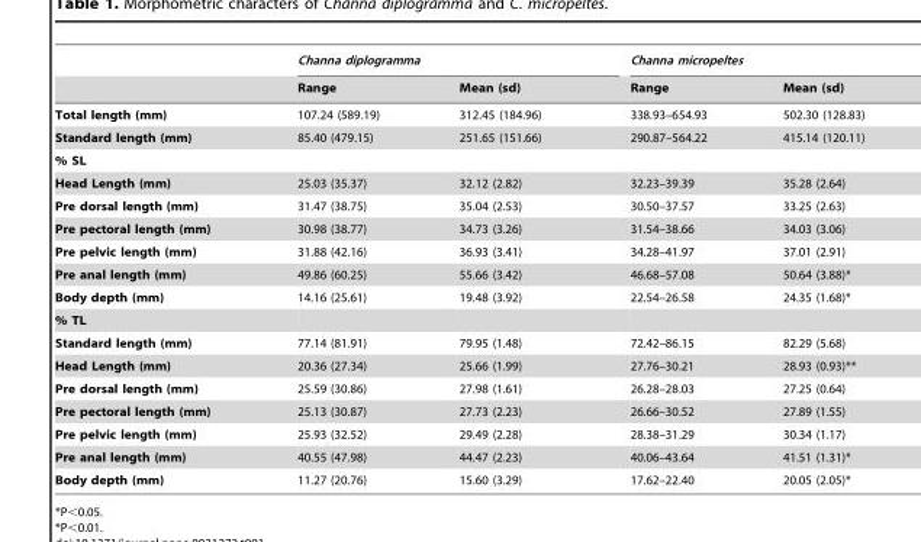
<table><thead><tr><td rowspan="2"></td><td colspan="2">Channa diplogramma</td><td colspan="2">Channa micropeltes</td></tr><tr><td>Range</td><td>Mean (sd)</td><td>Range</td><td>Mean (sd)</td></tr></thead><tbody><tr><td>Total length (mm)</td><td>107.24 (589.19)</td><td>312.45 (184.96)</td><td>338.93–654.93</td><td>502.30 (128.83)</td></tr><tr><td>Standard length (mm)</td><td>85.40 (479.15)</td><td>251.65 (151.66)</td><td>290.87–564.22</td><td>415.14 (120.11)</td></tr><tr><td colspan="5">% SL</td></tr><tr><td>Head Length (mm)</td><td>25.03 (35.37)</td><td>32.12 (2.82)</td><td>32.23–39.39</td><td>35.28 (2.64)</td></tr><tr><td>Pre dorsal length (mm)</td><td>31.47 (38.75)</td><td>35.04 (2.53)</td><td>30.50–37.57</td><td>33.25 (2.63)</td></tr><tr><td>Pre pectoral length (mm)</td><td>30.98 (38.77)</td><td>34.73 (3.26)</td><td>31.54–38.66</td><td>34.03 (3.06)</td></tr><tr><td>Pre pelvic length (mm)</td><td>31.88 (42.16)</td><td>36.93 (3.41)</td><td>34.28–41.97</td><td>37.01 (2.91)</td></tr><tr><td>Pre anal length (mm)</td><td>49.86 (60.25)</td><td>55.66 (3.42)</td><td>46.68–57.08</td><td>50.64 (3.88)*</td></tr><tr><td>Body depth (mm)</td><td>14.16 (25.61)</td><td>19.48 (3.92)</td><td>22.54–26.58</td><td>24.35 (1.68)*</td></tr><tr><td colspan="5">% TL</td></tr><tr><td>Standard length (mm)</td><td>77.14 (81.91)</td><td>79.95 (1.48)</td><td>72.42–86.15</td><td>82.29 (5.68)</td></tr><tr><td>Head Length (mm)</td><td>20.36 (27.34)</td><td>25.66 (1.99)</td><td>27.76–30.21</td><td>28.93 (0.93)**</td></tr><tr><td>Pre dorsal length (mm)</td><td>25.59 (30.86)</td><td>27.98 (1.61)</td><td>26.28–28.03</td><td>27.25 (0.64)</td></tr><tr><td>Pre pectoral length (mm)</td><td>25.13 (30.87)</td><td>27.73 (2.23)</td><td>26.66–30.52</td><td>27.89 (1.55)</td></tr><tr><td>Pre pelvic length (mm)</td><td>25.93 (32.52)</td><td>29.49 (2.28)</td><td>28.38–31.29</td><td>30.34 (1.17)</td></tr><tr><td>Pre anal length (mm)</td><td>40.55 (47.98)</td><td>44.47 (2.23)</td><td>40.06–43.64</td><td>41.51 (1.31)*</td></tr><tr><td>Body depth (mm)</td><td>11.27 (20.76)</td><td>15.60 (3.29)</td><td>17.62–22.40</td><td>20.05 (2.05)*</td></tr></tbody></table>